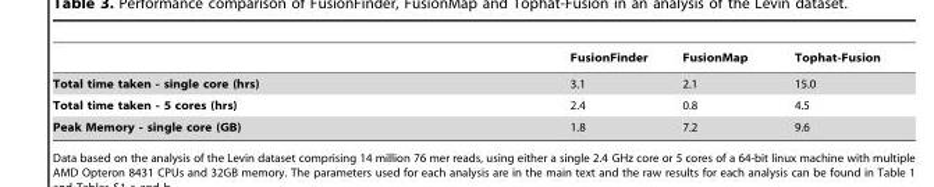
<table><thead><tr><td></td><td>FusionFinder</td><td>FusionMap</td><td>Tophat-Fusion</td></tr></thead><tbody><tr><td>Total time taken - single core (hrs)</td><td>3.1</td><td>2.1</td><td>15.0</td></tr><tr><td>Total time taken - 5 cores (hrs)</td><td>2.4</td><td>0.8</td><td>4.5</td></tr><tr><td>Peak Memory - single core (GB)</td><td>1.8</td><td>7.2</td><td>9.6</td></tr></tbody></table>